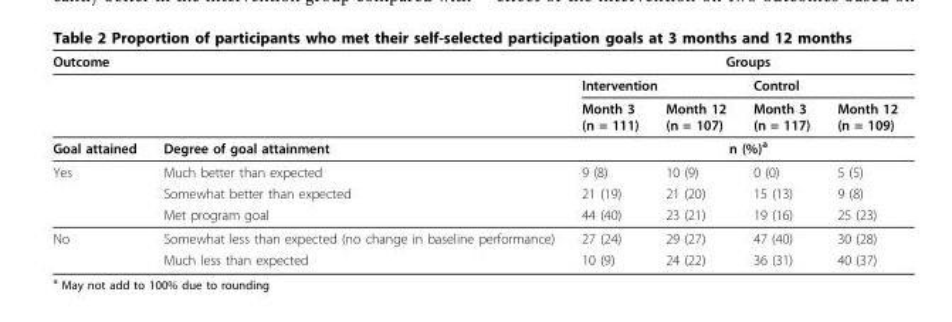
<table><thead><tr><td colspan="2">Outcome</td><td colspan="4">Groups</td></tr><tr><td rowspan="2"></td><td rowspan="2"></td><td colspan="2">Intervention</td><td colspan="2">Control</td></tr><tr><td>Month 3 (n = 111)</td><td>Month 12 (n = 107)</td><td>Month 3 (n = 117)</td><td>Month 12 (n = 109)</td></tr></thead><tbody><tr><td>Goal attained</td><td>Degree of goal attainment</td><td colspan="4">n (%)<sup>a</sup></td></tr><tr><td rowspan="3">Yes</td><td>Much better than expected</td><td>9 (8)</td><td>10 (9)</td><td>0 (0)</td><td>5 (5)</td></tr><tr><td>Somewhat better than expected</td><td>21 (19)</td><td>21 (20)</td><td>15 (13)</td><td>9 (8)</td></tr><tr><td>Met program goal</td><td>44 (40)</td><td>23 (21)</td><td>19 (16)</td><td>25 (23)</td></tr><tr><td rowspan="2">No</td><td>Somewhat less than expected (no change in baseline performance)</td><td>27 (24)</td><td>29 (27)</td><td>47 (40)</td><td>30 (28)</td></tr><tr><td>Much less than expected</td><td>10 (9)</td><td>24 (22)</td><td>36 (31)</td><td>40 (37)</td></tr></tbody></table>